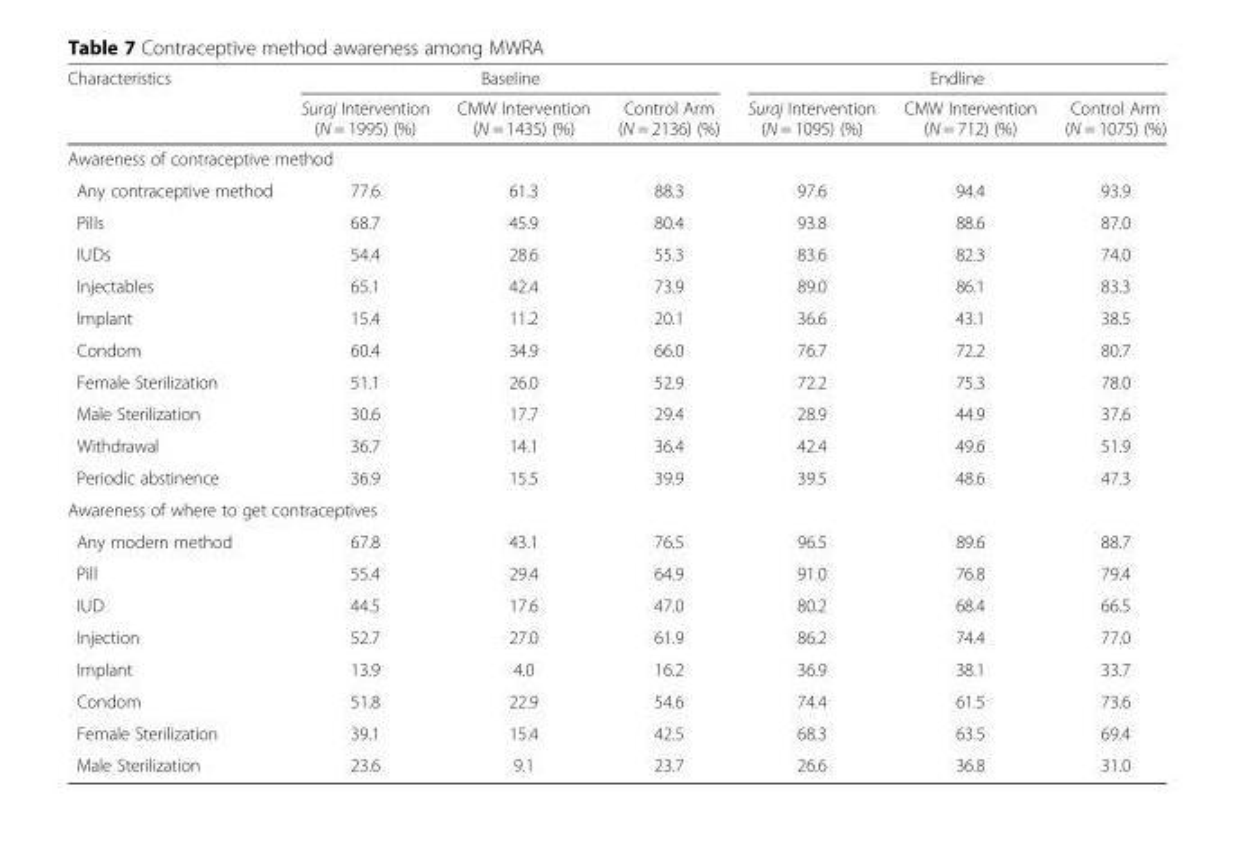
<table><thead><tr><td rowspan="2">Characteristics</td><td colspan="3">Baseline</td><td colspan="3">Endline</td></tr><tr><td>Suraj Intervention (N = 1995) (%)</td><td>CMW Intervention (N = 1435) (%)</td><td>Control Arm (N = 2136) (%)</td><td>Suraj Intervention (N = 1095) (%)</td><td>CMW Intervention (N = 712) (%)</td><td>Control Arm (N = 1075) (%)</td></tr></thead><tbody><tr><td colspan="7">Awareness of contraceptive method</td></tr><tr><td>Any contraceptive method</td><td>77.6</td><td>61.3</td><td>88.3</td><td>97.6</td><td>94.4</td><td>93.9</td></tr><tr><td>Pills</td><td>68.7</td><td>45.9</td><td>80.4</td><td>93.8</td><td>88.6</td><td>87.0</td></tr><tr><td>IUDs</td><td>54.4</td><td>28.6</td><td>55.3</td><td>83.6</td><td>82.3</td><td>74.0</td></tr><tr><td>Injectables</td><td>65.1</td><td>42.4</td><td>73.9</td><td>89.0</td><td>86.1</td><td>83.3</td></tr><tr><td>Implant</td><td>15.4</td><td>11.2</td><td>20.1</td><td>36.6</td><td>43.1</td><td>38.5</td></tr><tr><td>Condom</td><td>60.4</td><td>34.9</td><td>66.0</td><td>76.7</td><td>72.2</td><td>80.7</td></tr><tr><td>Female Sterilization</td><td>51.1</td><td>26.0</td><td>52.9</td><td>72.2</td><td>75.3</td><td>78.0</td></tr><tr><td>Male Sterilization</td><td>30.6</td><td>17.7</td><td>29.4</td><td>28.9</td><td>44.9</td><td>37.6</td></tr><tr><td>Withdrawal</td><td>36.7</td><td>14.1</td><td>36.4</td><td>42.4</td><td>49.6</td><td>51.9</td></tr><tr><td>Periodic abstinence</td><td>36.9</td><td>15.5</td><td>39.9</td><td>39.5</td><td>48.6</td><td>47.3</td></tr><tr><td colspan="7">Awareness of where to get contraceptives</td></tr><tr><td>Any modern method</td><td>67.8</td><td>43.1</td><td>76.5</td><td>96.5</td><td>89.6</td><td>88.7</td></tr><tr><td>Pill</td><td>55.4</td><td>29.4</td><td>64.9</td><td>91.0</td><td>76.8</td><td>79.4</td></tr><tr><td>IUD</td><td>44.5</td><td>17.6</td><td>47.0</td><td>80.2</td><td>68.4</td><td>66.5</td></tr><tr><td>Injection</td><td>52.7</td><td>27.0</td><td>61.9</td><td>86.2</td><td>74.4</td><td>77.0</td></tr><tr><td>Implant</td><td>13.9</td><td>4.0</td><td>16.2</td><td>36.9</td><td>38.1</td><td>33.7</td></tr><tr><td>Condom</td><td>51.8</td><td>22.9</td><td>54.6</td><td>74.4</td><td>61.5</td><td>73.6</td></tr><tr><td>Female Sterilization</td><td>39.1</td><td>15.4</td><td>42.5</td><td>68.3</td><td>63.5</td><td>69.4</td></tr><tr><td>Male Sterilization</td><td>23.6</td><td>9.1</td><td>23.7</td><td>26.6</td><td>36.8</td><td>31.0</td></tr></tbody></table>